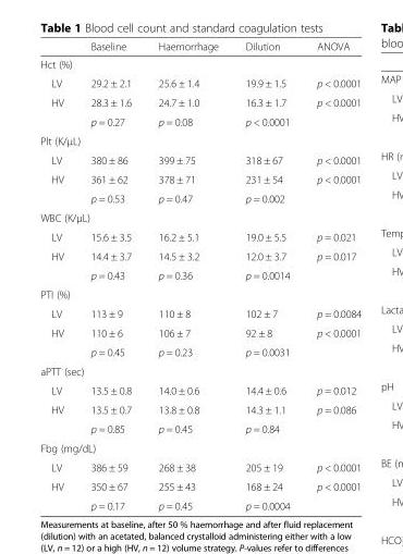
<table><thead><tr><td></td><td>Baseline</td><td>Haemorrhage</td><td>Dilution</td><td>ANOVA</td></tr></thead><tbody><tr><td colspan="5">Hct (%)</td></tr><tr><td>LV</td><td>29.2 ± 2.1</td><td>25.6 ± 1.4</td><td>19.9 ± 1.5</td><td>p &lt; 0.0001</td></tr><tr><td rowspan="2">HV</td><td>28.3 ± 1.6</td><td>24.7 ± 1.0</td><td>16.3 ± 1.7</td><td>p &lt; 0.0001</td></tr><tr><td>p = 0.27</td><td>p = 0.08</td><td>p &lt; 0.0001</td><td></td></tr><tr><td colspan="5">Plt (K/μL)</td></tr><tr><td>LV</td><td>380 ± 86</td><td>399 ± 75</td><td>318 ± 67</td><td>p &lt; 0.0001</td></tr><tr><td rowspan="2">HV</td><td>361 ± 62</td><td>378 ± 71</td><td>231 ± 54</td><td>p &lt; 0.0001</td></tr><tr><td>p = 0.53</td><td>p = 0.47</td><td>p = 0.002</td><td></td></tr><tr><td colspan="5">WBC (K/μL)</td></tr><tr><td>LV</td><td>15.6 ± 3.5</td><td>16.2 ± 5.1</td><td>19.0 ± 5.5</td><td>p = 0.021</td></tr><tr><td rowspan="2">HV</td><td>14.4 ± 3.7</td><td>14.5 ± 3.2</td><td>12.0 ± 3.7</td><td>p = 0.017</td></tr><tr><td>p = 0.43</td><td>p = 0.36</td><td>p = 0.0014</td><td></td></tr><tr><td colspan="5">PTI (%)</td></tr><tr><td>LV</td><td>113 ± 9</td><td>110 ± 8</td><td>102 ± 7</td><td>p = 0.0084</td></tr><tr><td rowspan="2">HV</td><td>110 ± 6</td><td>106 ± 7</td><td>92 ± 8</td><td>p &lt; 0.0001</td></tr><tr><td>p = 0.45</td><td>p = 0.23</td><td>p = 0.0031</td><td></td></tr><tr><td colspan="5">aPTT (sec)</td></tr><tr><td>LV</td><td>13.5 ± 0.8</td><td>14.0 ± 0.6</td><td>14.4 ± 0.6</td><td>p = 0.012</td></tr><tr><td rowspan="2">HV</td><td>13.5 ± 0.7</td><td>13.8 ± 0.8</td><td>14.3 ± 1.1</td><td>p = 0.086</td></tr><tr><td>p = 0.85</td><td>p = 0.45</td><td>p = 0.84</td><td></td></tr><tr><td colspan="5">Fbg (mg/dL)</td></tr><tr><td>LV</td><td>386 ± 59</td><td>268 ± 38</td><td>205 ± 19</td><td>p &lt; 0.0001</td></tr><tr><td rowspan="2">HV</td><td>350 ± 67</td><td>255 ± 43</td><td>168 ± 24</td><td>p &lt; 0.0001</td></tr><tr><td>p = 0.17</td><td>p = 0.45</td><td>p = 0.0004</td><td></td></tr></tbody></table>